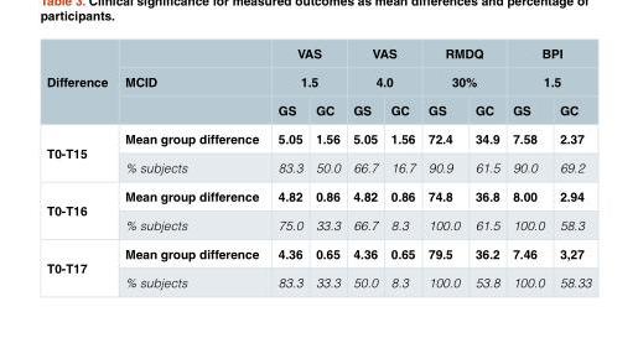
<table><thead><tr><td rowspan="3">Difference</td><td rowspan="3">MCID</td><td rowspan="2" colspan="2">VAS 1.5</td><td rowspan="2" colspan="2">VAS 4.0</td><td rowspan="2" colspan="2">RMDQ 30%</td><td rowspan="2" colspan="2">BPI 1.5</td></tr><tr></tr><tr><td>GS</td><td>GC</td><td>GS</td><td>GC</td><td>GS</td><td>GC</td><td>GS</td><td>GC</td></tr></thead><tbody><tr><td rowspan="2">T0-T15</td><td>Mean group difference</td><td>5.05</td><td>1.56</td><td>5.05</td><td>1.56</td><td>72.4</td><td>34.9</td><td>7.58</td><td>2.37</td></tr><tr><td>% subjects</td><td>83.3</td><td>50.0</td><td>66.7</td><td>16.7</td><td>90.9</td><td>61.5</td><td>90.0</td><td>69.2</td></tr><tr><td rowspan="2">T0-T16</td><td>Mean group difference</td><td>4.82</td><td>0.86</td><td>4.82</td><td>0.86</td><td>74.8</td><td>36.8</td><td>8.00</td><td>2.94</td></tr><tr><td>% subjects</td><td>75.0</td><td>33.3</td><td>66.7</td><td>8.3</td><td>100.0</td><td>61.5</td><td>100.0</td><td>58.3</td></tr><tr><td rowspan="2">T0-T17</td><td>Mean group difference</td><td>4.36</td><td>0.65</td><td>4.36</td><td>0.65</td><td>79.5</td><td>36.2</td><td>7.46</td><td>3,27</td></tr><tr><td>% subjects</td><td>83.3</td><td>33.3</td><td>50.0</td><td>8.3</td><td>100.0</td><td>53.8</td><td>100.0</td><td>58.33</td></tr></tbody></table>